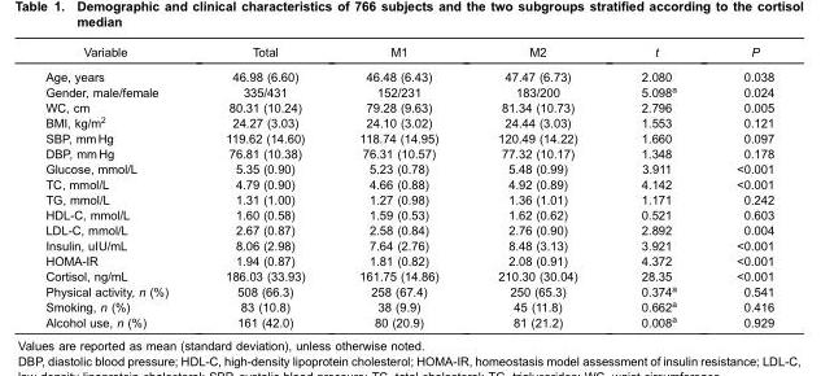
<table><thead><tr><td>Variable</td><td>Total</td><td>M1</td><td>M2</td><td>t</td><td>P</td></tr></thead><tbody><tr><td>Age, years</td><td>46.98 (6.60)</td><td>46.48 (6.43)</td><td>47.47 (6.73)</td><td>2.080</td><td>0.038</td></tr><tr><td>Gender, male/female</td><td>335/431</td><td>152/231</td><td>183/200</td><td>5.098<sup>a</sup></td><td>0.024</td></tr><tr><td>WC, cm</td><td>80.31 (10.24)</td><td>79.28 (9.63)</td><td>81.34 (10.73)</td><td>2.796</td><td>0.005</td></tr><tr><td>BMI, kg/m<sup>2</sup></td><td>24.27 (3.03)</td><td>24.10 (3.02)</td><td>24.44 (3.03)</td><td>1.553</td><td>0.121</td></tr><tr><td>SBP, mm Hg</td><td>119.62 (14.60)</td><td>118.74 (14.95)</td><td>120.49 (14.22)</td><td>1.660</td><td>0.097</td></tr><tr><td>DBP, mm Hg</td><td>76.81 (10.38)</td><td>76.31 (10.57)</td><td>77.32 (10.17)</td><td>1.348</td><td>0.178</td></tr><tr><td>Glucose, mmol/L</td><td>5.35 (0.90)</td><td>5.23 (0.78)</td><td>5.48 (0.99)</td><td>3.911</td><td>&lt;0.001</td></tr><tr><td>TC, mmol/L</td><td>4.79 (0.90)</td><td>4.66 (0.88)</td><td>4.92 (0.89)</td><td>4.142</td><td>&lt;0.001</td></tr><tr><td>TG, mmol/L</td><td>1.31 (1.00)</td><td>1.27 (0.98)</td><td>1.36 (1.01)</td><td>1.171</td><td>0.242</td></tr><tr><td>HDL-C, mmol/L</td><td>1.60 (0.58)</td><td>1.59 (0.53)</td><td>1.62 (0.62)</td><td>0.521</td><td>0.603</td></tr><tr><td>LDL-C, mmol/L</td><td>2.67 (0.87)</td><td>2.58 (0.84)</td><td>2.76 (0.90)</td><td>2.892</td><td>0.004</td></tr><tr><td>Insulin, uIU/mL</td><td>8.06 (2.98)</td><td>7.64 (2.76)</td><td>8.48 (3.13)</td><td>3.921</td><td>&lt;0.001</td></tr><tr><td>HOMA-IR</td><td>1.94 (0.87)</td><td>1.81 (0.82)</td><td>2.08 (0.91)</td><td>4.372</td><td>&lt;0.001</td></tr><tr><td>Cortisol, ng/mL</td><td>186.03 (33.93)</td><td>161.75 (14.86)</td><td>210.30 (30.04)</td><td>28.35</td><td>&lt;0.001</td></tr><tr><td>Physical activity, n (%)</td><td>508 (66.3)</td><td>258 (67.4)</td><td>250 (65.3)</td><td>0.374<sup>a</sup></td><td>0.541</td></tr><tr><td>Smoking, n (%)</td><td>83 (10.8)</td><td>38 (9.9)</td><td>45 (11.8)</td><td>0.662<sup>a</sup></td><td>0.416</td></tr><tr><td>Alcohol use, n (%)</td><td>161 (42.0)</td><td>80 (20.9)</td><td>81 (21.2)</td><td>0.008<sup>a</sup></td><td>0.929</td></tr></tbody></table>